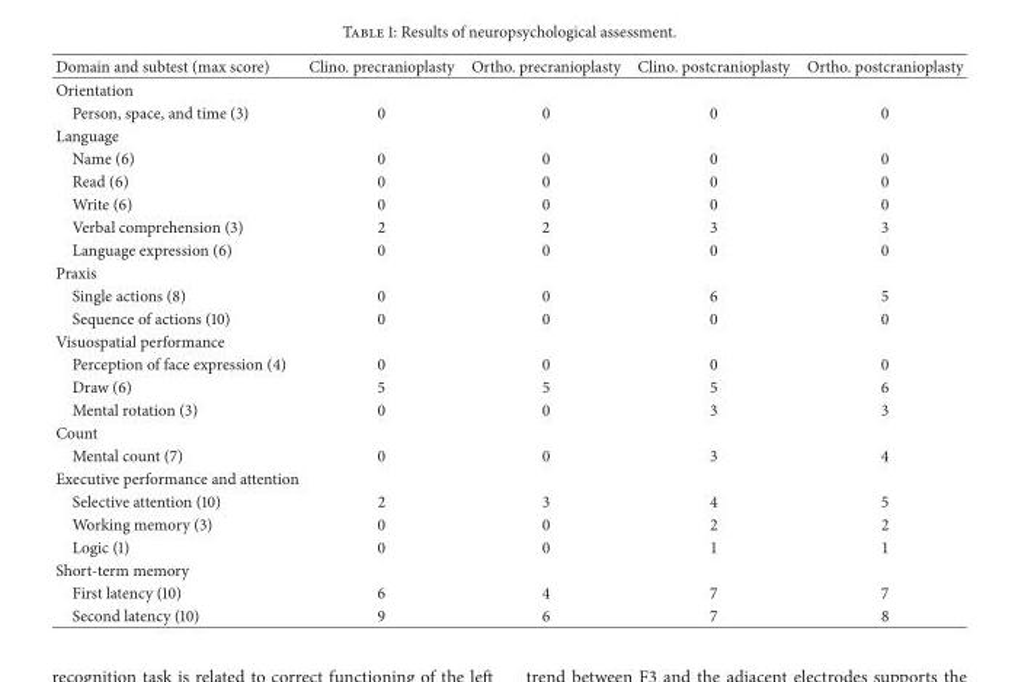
<table><thead><tr><td>Domain and subtest (max score)</td><td>Clino. precranioplasty</td><td>Ortho. precranioplasty</td><td>Clino. postcranioplasty</td><td>Ortho. postcranioplasty</td></tr></thead><tbody><tr><td colspan="5">Orientation</td></tr><tr><td>Person, space, and time (3)</td><td>0</td><td>0</td><td>0</td><td>0</td></tr><tr><td colspan="5">Language</td></tr><tr><td>Name (6)</td><td>0</td><td>0</td><td>0</td><td>0</td></tr><tr><td>Read (6)</td><td>0</td><td>0</td><td>0</td><td>0</td></tr><tr><td>Write (6)</td><td>0</td><td>0</td><td>0</td><td>0</td></tr><tr><td>Verbal comprehension (3)</td><td>2</td><td>2</td><td>3</td><td>3</td></tr><tr><td>Language expression (6)</td><td>0</td><td>0</td><td>0</td><td>0</td></tr><tr><td colspan="5">Praxis</td></tr><tr><td>Single actions (8)</td><td>0</td><td>0</td><td>6</td><td>5</td></tr><tr><td>Sequence of actions (10)</td><td>0</td><td>0</td><td>0</td><td>0</td></tr><tr><td colspan="5">Visuospatial performance</td></tr><tr><td>Perception of face expression (4)</td><td>0</td><td>0</td><td>0</td><td>0</td></tr><tr><td>Draw (6)</td><td>5</td><td>5</td><td>5</td><td>6</td></tr><tr><td>Mental rotation (3)</td><td>0</td><td>0</td><td>3</td><td>3</td></tr><tr><td colspan="5">Count</td></tr><tr><td>Mental count (7)</td><td>0</td><td>0</td><td>3</td><td>4</td></tr><tr><td colspan="5">Executive performance and attention</td></tr><tr><td>Selective attention (10)</td><td>2</td><td>3</td><td>4</td><td>5</td></tr><tr><td>Working memory (3)</td><td>0</td><td>0</td><td>2</td><td>2</td></tr><tr><td>Logic (1)</td><td>0</td><td>0</td><td>1</td><td>1</td></tr><tr><td colspan="5">Short-term memory</td></tr><tr><td>First latency (10)</td><td>6</td><td>4</td><td>7</td><td>7</td></tr><tr><td>Second latency (10)</td><td>9</td><td>6</td><td>7</td><td>8</td></tr></tbody></table>